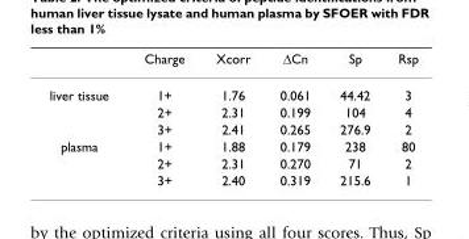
<table><thead><tr><td></td><td>Charge</td><td>Xcorr</td><td>ΔCn</td><td>Sp</td><td>Rsp</td></tr></thead><tbody><tr><td rowspan="3">liver tissue</td><td>1+</td><td>1.76</td><td>0.061</td><td>44.42</td><td>3</td></tr><tr><td>2+</td><td>2.31</td><td>0.199</td><td>104</td><td>4</td></tr><tr><td>3+</td><td>2.41</td><td>0.265</td><td>276.9</td><td>2</td></tr><tr><td rowspan="3">plasma</td><td>1+</td><td>1.88</td><td>0.179</td><td>238</td><td>80</td></tr><tr><td>2+</td><td>2.31</td><td>0.270</td><td>71</td><td>2</td></tr><tr><td>3+</td><td>2.40</td><td>0.319</td><td>215.6</td><td>1</td></tr></tbody></table>